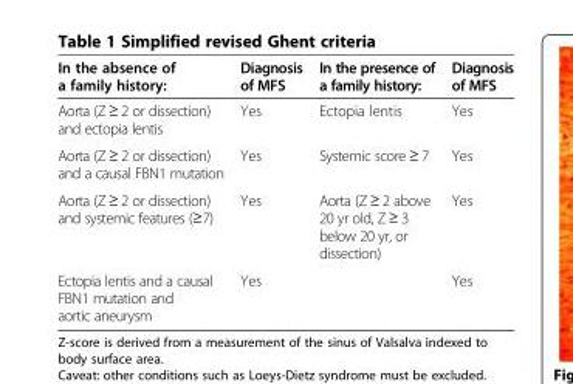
<table><thead><tr><td>In the absence of a family history:</td><td>Diagnosis of MFS</td><td>In the presence of a family history:</td><td>Diagnosis of MFS</td></tr></thead><tbody><tr><td>Aorta (Z ≥ 2 or dissection) and ectopia lentis</td><td>Yes</td><td>Ectopia lentis</td><td>Yes</td></tr><tr><td>Aorta (Z ≥ 2 or dissection) and a causal FBN1 mutation</td><td>Yes</td><td>Systemic score ≥ 7</td><td>Yes</td></tr><tr><td>Aorta (Z ≥ 2 or dissection) and systemic features (≥7)</td><td>Yes</td><td>Aorta (Z ≥ 2 above 20 yr old, Z ≥ 3 below 20 yr, or dissection)</td><td>Yes</td></tr><tr><td>Ectopia lentis and a causal FBN1 mutation and aortic aneurysm</td><td>Yes</td><td></td><td>Yes</td></tr></tbody></table>